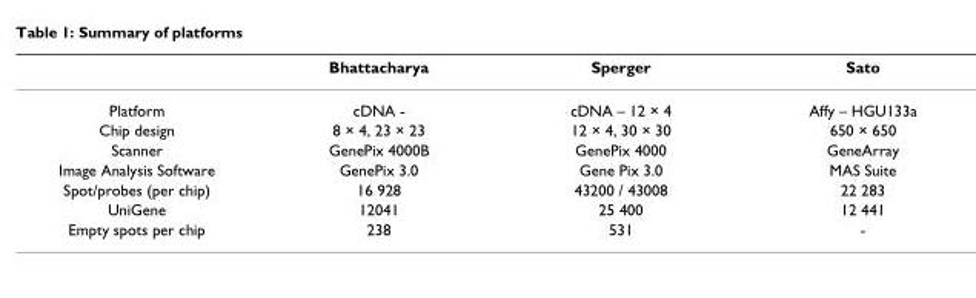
<table><thead><tr><td></td><td>Bhattacharya</td><td>Sperger</td><td>Sato</td></tr></thead><tbody><tr><td>Platform</td><td>cDNA -</td><td>cDNA – 12 × 4</td><td>Affy – HGU133a</td></tr><tr><td>Chip design</td><td>8 × 4, 23 × 23</td><td>12 × 4, 30 × 30</td><td>650 × 650</td></tr><tr><td>Scanner</td><td>GenePix 4000B</td><td>GenePix 4000</td><td>GeneArray</td></tr><tr><td>Image Analysis Software</td><td>GenePix 3.0</td><td>Gene Pix 3.0</td><td>MAS Suite</td></tr><tr><td>Spot/probes (per chip)</td><td>16 928</td><td>43200 / 43008</td><td>22 283</td></tr><tr><td>UniGene</td><td>12041</td><td>25 400</td><td>12 441</td></tr><tr><td>Empty spots per chip</td><td>238</td><td>531</td><td>-</td></tr></tbody></table>